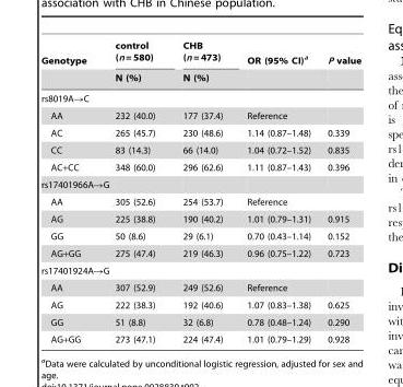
<table><thead><tr><td rowspan="2">Genotype</td><td rowspan="2">control (n = 580) N (%)</td><td rowspan="2">CHB (n = 473) N (%)</td><td rowspan="2">OR (95% CI)<sup>a</sup></td><td rowspan="2">P value</td></tr><tr></tr></thead><tbody><tr><td colspan="5">rs8019A→C</td></tr><tr><td>AA</td><td>232 (40.0)</td><td>177 (37.4)</td><td>Reference</td><td></td></tr><tr><td>AC</td><td>265 (45.7)</td><td>230 (48.6)</td><td>1.14 (0.87–1.48)</td><td>0.339</td></tr><tr><td>CC</td><td>83 (14.3)</td><td>66 (14.0)</td><td>1.04 (0.72–1.52)</td><td>0.835</td></tr><tr><td>AC+CC</td><td>348 (60.0)</td><td>296 (62.6)</td><td>1.11 (0.87–1.43)</td><td>0.396</td></tr><tr><td colspan="5">rs17401966A→G</td></tr><tr><td>AA</td><td>305 (52.6)</td><td>254 (53.7)</td><td>Reference</td><td></td></tr><tr><td>AG</td><td>225 (38.8)</td><td>190 (40.2)</td><td>1.01 (0.79–1.31)</td><td>0.915</td></tr><tr><td>GG</td><td>50 (8.6)</td><td>29 (6.1)</td><td>0.70 (0.43–1.14)</td><td>0.152</td></tr><tr><td>AG+GG</td><td>275 (47.4)</td><td>219 (46.3)</td><td>0.96 (0.75–1.22)</td><td>0.723</td></tr><tr><td colspan="5">rs17401924A→G</td></tr><tr><td>AA</td><td>307 (52.9)</td><td>249 (52.6)</td><td>Reference</td><td></td></tr><tr><td>AG</td><td>222 (38.3)</td><td>192 (40.6)</td><td>1.07 (0.83–1.38)</td><td>0.625</td></tr><tr><td>GG</td><td>51 (8.8)</td><td>32 (6.8)</td><td>0.78 (0.48–1.24)</td><td>0.290</td></tr><tr><td>AG+GG</td><td>273 (47.1)</td><td>224 (47.4)</td><td>1.01 (0.79–1.29)</td><td>0.928</td></tr></tbody></table>